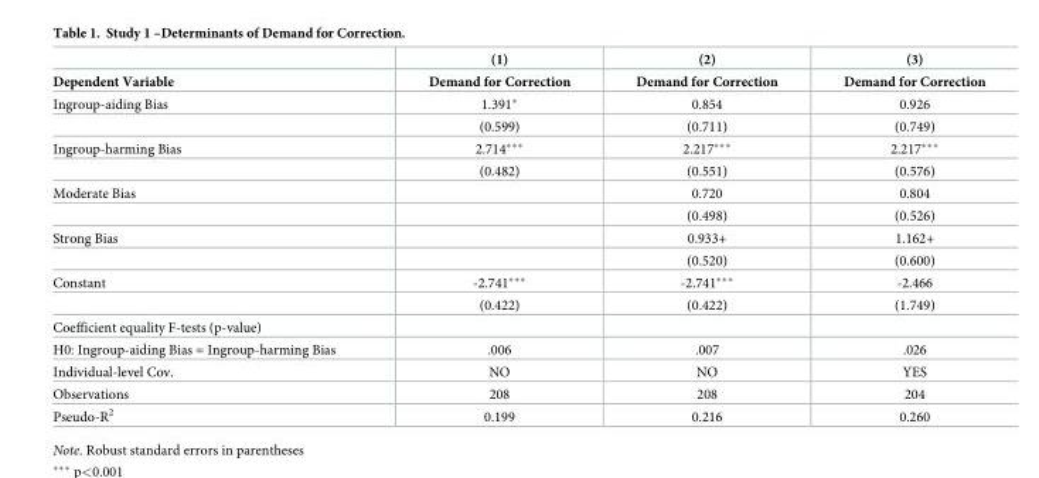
<table><thead><tr><td rowspan="2">Dependent Variable</td><td rowspan="2">(1) Demand for Correction</td><td rowspan="2">(2) Demand for Correction</td><td rowspan="2">(3) Demand for Correction</td></tr><tr></tr></thead><tbody><tr><td rowspan="2">Ingroup-aiding Bias</td><td>1.391*</td><td>0.854</td><td>0.926</td></tr><tr><td>(0.599)</td><td>(0.711)</td><td>(0.749)</td></tr><tr><td rowspan="2">Ingroup-harming Bias</td><td>2.714***</td><td>2.217***</td><td>2.217***</td></tr><tr><td>(0.482)</td><td>(0.551)</td><td>(0.576)</td></tr><tr><td rowspan="2">Moderate Bias</td><td></td><td>0.720</td><td>0.804</td></tr><tr><td></td><td>(0.498)</td><td>(0.526)</td></tr><tr><td rowspan="2">Strong Bias</td><td></td><td>0.933+</td><td>1.162+</td></tr><tr><td></td><td>(0.520)</td><td>(0.600)</td></tr><tr><td rowspan="2">Constant</td><td>-2.741***</td><td>-2.741***</td><td>-2.466</td></tr><tr><td>(0.422)</td><td>(0.422)</td><td>(1.749)</td></tr><tr><td colspan="4">Coefficient equality F-tests (p-value)</td></tr><tr><td>H0: Ingroup-aiding Bias = Ingroup-harming Bias</td><td>.006</td><td>.007</td><td>.026</td></tr><tr><td>Individual-level Cov.</td><td>NO</td><td>NO</td><td>YES</td></tr><tr><td>Observations</td><td>208</td><td>208</td><td>204</td></tr><tr><td>Pseudo-R<sup>2</sup></td><td>0.199</td><td>0.216</td><td>0.260</td></tr></tbody></table>